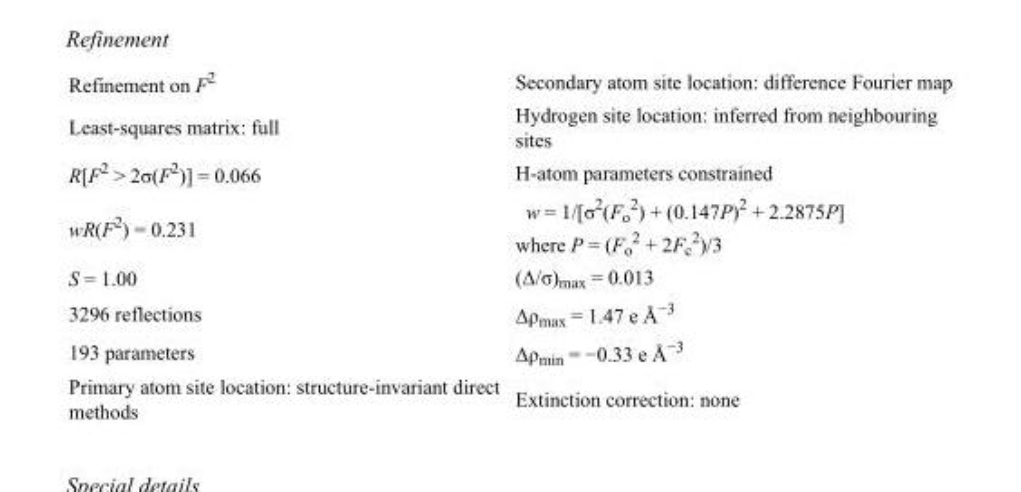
<table><tbody><tr><td>Refinement on F<sup>2</sup></td><td>Secondary atom site location: difference Fourier map</td></tr><tr><td>Least-squares matrix: full</td><td>Hydrogen site location: inferred from neighbouring sites</td></tr><tr><td>R[F<sup>2</sup> &gt; 2σ(F<sup>2</sup>)] = 0.066</td><td>H-atom parameters constrained</td></tr><tr><td>wR(F<sup>2</sup>) = 0.231</td><td>w = 1/[σ<sup>2</sup>(F<sub>o</sub> <sup>2</sup>) + (0.147P)<sup>2</sup> + 2.2875P] where P = (F<sub>o</sub> <sup>2</sup> + 2F<sub>c</sub> <sup>2</sup>)/3</td></tr><tr><td>S = 1.00</td><td>(Δ/σ)<sub>max</sub> = 0.013</td></tr><tr><td>3296 reflections</td><td>Δρ<sub>max</sub> = 1.47 e Å<sup>−3</sup></td></tr><tr><td>193 parameters</td><td>Δρ<sub>min</sub> = −0.33 e Å<sup>−3</sup></td></tr><tr><td>Primary atom site location: structure-invariant direct methods</td><td>Extinction correction: none</td></tr></tbody></table>